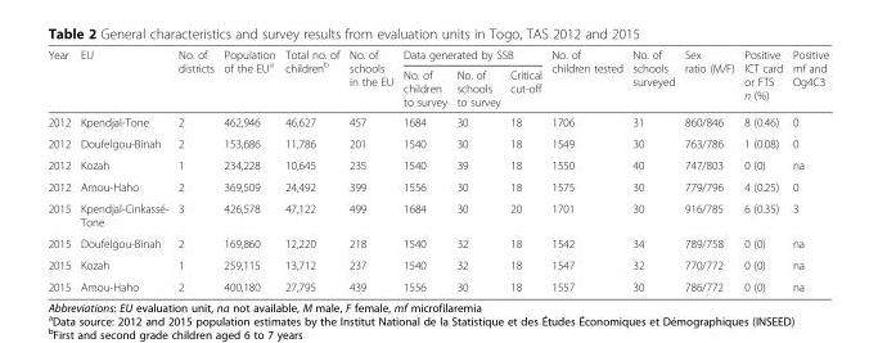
<table><thead><tr><td rowspan="2">Year</td><td rowspan="2">EU</td><td rowspan="2">No. of districts</td><td rowspan="2">Population of the EU<sup>a</sup></td><td rowspan="2">Total no. of children<sup>b</sup></td><td rowspan="2">No. of schools in the EU</td><td colspan="3">Data generated by SSB</td><td rowspan="2">No. of children tested</td><td rowspan="2">No. of schools surveyed</td><td rowspan="2">Sex ratio (M/F)</td><td rowspan="2">Positive ICT card or FTS n (%)</td><td rowspan="2">Positive mf and Og4C3</td></tr><tr><td>No. of children to survey</td><td>No. of schools to survey</td><td>Critical cut-off</td></tr></thead><tbody><tr><td>2012</td><td>Kpendjal-Tone</td><td>2</td><td>462,946</td><td>46,627</td><td>457</td><td>1684</td><td>30</td><td>18</td><td>1706</td><td>31</td><td>860/846</td><td>8 (0.46)</td><td>0</td></tr><tr><td>2012</td><td>Doufelgou-Binah</td><td>2</td><td>153,686</td><td>11,786</td><td>201</td><td>1540</td><td>30</td><td>18</td><td>1549</td><td>30</td><td>763/786</td><td>1 (0.08)</td><td>0</td></tr><tr><td>2012</td><td>Kozah</td><td>1</td><td>234,228</td><td>10,645</td><td>235</td><td>1540</td><td>39</td><td>18</td><td>1550</td><td>40</td><td>747/803</td><td>0 (0)</td><td>na</td></tr><tr><td>2012</td><td>Amou-Haho</td><td>2</td><td>369,509</td><td>24,492</td><td>399</td><td>1556</td><td>30</td><td>18</td><td>1575</td><td>30</td><td>779/796</td><td>4 (0.25)</td><td>0</td></tr><tr><td>2015</td><td>Kpendjal-Cinkassé- Tone</td><td>3</td><td>426,578</td><td>47,122</td><td>499</td><td>1684</td><td>30</td><td>20</td><td>1701</td><td>30</td><td>916/785</td><td>6 (0.35)</td><td>3</td></tr><tr><td>2015</td><td>Doufelgou-Binah</td><td>2</td><td>169,860</td><td>12,220</td><td>218</td><td>1540</td><td>32</td><td>18</td><td>1542</td><td>34</td><td>789/758</td><td>0 (0)</td><td>na</td></tr><tr><td>2015</td><td>Kozah</td><td>1</td><td>259,115</td><td>13,712</td><td>237</td><td>1540</td><td>32</td><td>18</td><td>1547</td><td>32</td><td>770/772</td><td>0 (0)</td><td>na</td></tr><tr><td>2015</td><td>Amou-Haho</td><td>2</td><td>400,180</td><td>27,795</td><td>439</td><td>1556</td><td>30</td><td>18</td><td>1557</td><td>30</td><td>786/772</td><td>0 (0)</td><td>na</td></tr></tbody></table>